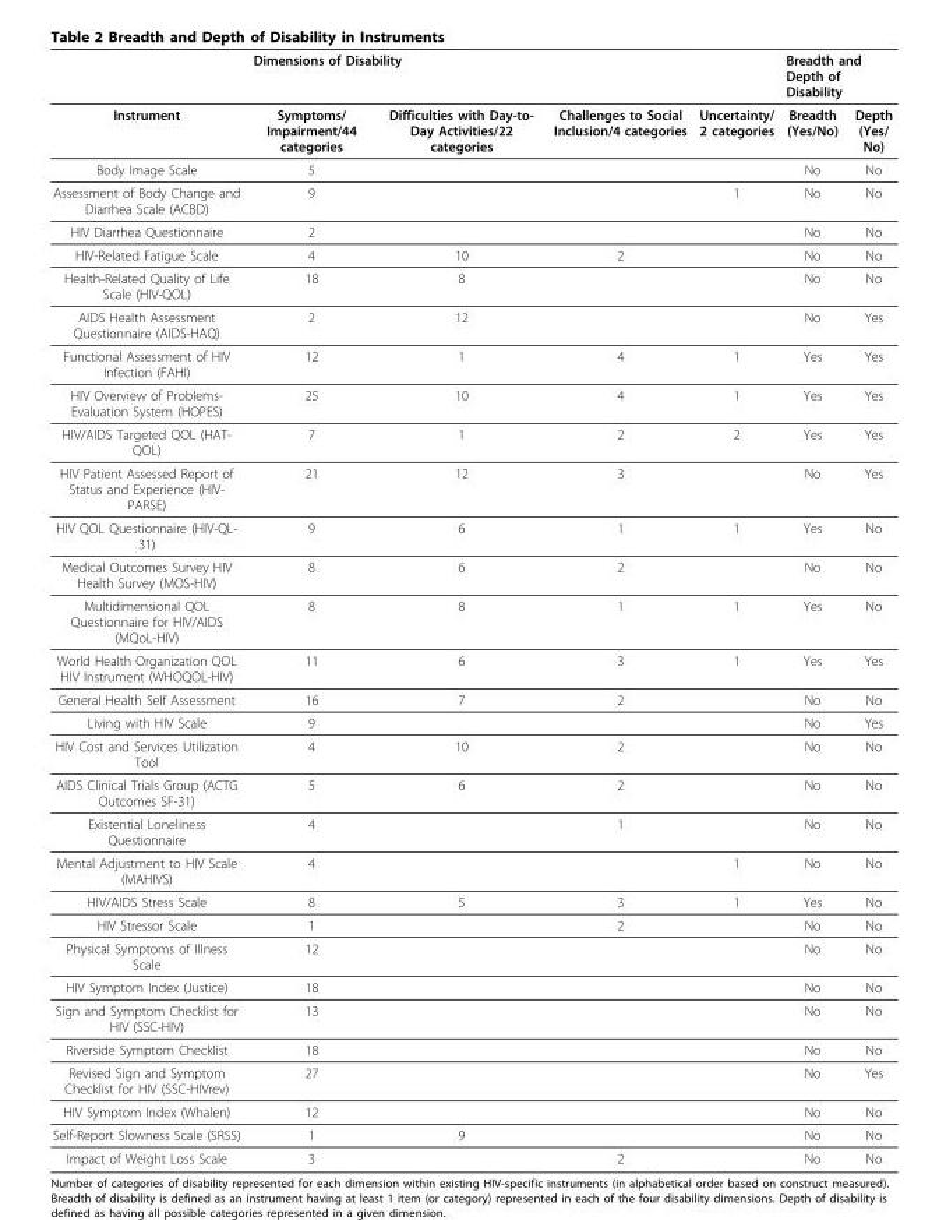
<table><thead><tr><td rowspan="2">Instrument</td><td colspan="4">Dimensions of Disability</td><td colspan="2">Breadth and Depth of Disability</td></tr><tr><td>Symptoms/ Impairment/44 categories</td><td>Difficulties with Day-to- Day Activities/22 categories</td><td>Challenges to Social Inclusion/4 categories</td><td>Uncertainty/ 2 categories</td><td>Breadth (Yes/No)</td><td>Depth (Yes/ No)</td></tr></thead><tbody><tr><td>Body Image Scale</td><td>5</td><td></td><td></td><td></td><td>No</td><td>No</td></tr><tr><td>Assessment of Body Change and Diarrhea Scale (ACBD)</td><td>9</td><td></td><td></td><td>1</td><td>No</td><td>No</td></tr><tr><td>HIV Diarrhea Questionnaire</td><td>2</td><td></td><td></td><td></td><td>No</td><td>No</td></tr><tr><td>HIV-Related Fatigue Scale</td><td>4</td><td>10</td><td>2</td><td></td><td>No</td><td>No</td></tr><tr><td>Health-Related Quality of Life Scale (HIV-QOL)</td><td>18</td><td>8</td><td></td><td></td><td>No</td><td>No</td></tr><tr><td>AIDS Health Assessment Questionnaire (AIDS-HAQ)</td><td>2</td><td>12</td><td></td><td></td><td>No</td><td>Yes</td></tr><tr><td>Functional Assessment of HIV Infection (FAHI)</td><td>12</td><td>1</td><td>4</td><td>1</td><td>Yes</td><td>Yes</td></tr><tr><td>HIV Overview of Problems- Evaluation System (HOPES)</td><td>25</td><td>10</td><td>4</td><td>1</td><td>Yes</td><td>Yes</td></tr><tr><td>HIV/AIDS Targeted QOL (HAT- QOL)</td><td>7</td><td>1</td><td>2</td><td>2</td><td>Yes</td><td>Yes</td></tr><tr><td>HIV Patient Assessed Report of Status and Experience (HIV- PARSE)</td><td>21</td><td>12</td><td>3</td><td></td><td>No</td><td>Yes</td></tr><tr><td>HIV QOL Questionnaire (HIV-QL- 31)</td><td>9</td><td>6</td><td>1</td><td>1</td><td>Yes</td><td>No</td></tr><tr><td>Medical Outcomes Survey HIV Health Survey (MOS-HIV)</td><td>8</td><td>6</td><td>2</td><td></td><td>No</td><td>No</td></tr><tr><td>Multidimensional QOL Questionnaire for HIV/AIDS (MQoL-HIV)</td><td>8</td><td>8</td><td>1</td><td>1</td><td>Yes</td><td>No</td></tr><tr><td>World Health Organization QOL HIV Instrument (WHOQOL-HIV)</td><td>11</td><td>6</td><td>3</td><td>1</td><td>Yes</td><td>Yes</td></tr><tr><td>General Health Self Assessment</td><td>16</td><td>7</td><td>2</td><td></td><td>No</td><td>No</td></tr><tr><td>Living with HIV Scale</td><td>9</td><td></td><td></td><td></td><td>No</td><td>Yes</td></tr><tr><td>HIV Cost and Services Utilization Tool</td><td>4</td><td>10</td><td>2</td><td></td><td>No</td><td>No</td></tr><tr><td>AIDS Clinical Trials Group (ACTG Outcomes SF-31)</td><td>5</td><td>6</td><td>2</td><td></td><td>No</td><td>No</td></tr><tr><td>Existential Loneliness Questionnaire</td><td>4</td><td></td><td>1</td><td></td><td>No</td><td>No</td></tr><tr><td>Mental Adjustment to HIV Scale (MAHIVS)</td><td>4</td><td></td><td></td><td>1</td><td>No</td><td>No</td></tr><tr><td>HIV/AIDS Stress Scale</td><td>8</td><td>5</td><td>3</td><td>1</td><td>Yes</td><td>No</td></tr><tr><td>HIV Stressor Scale</td><td>1</td><td></td><td>2</td><td></td><td>No</td><td>No</td></tr><tr><td>Physical Symptoms of Illness Scale</td><td>12</td><td></td><td></td><td></td><td>No</td><td>No</td></tr><tr><td>HIV Symptom Index (Justice)</td><td>18</td><td></td><td></td><td></td><td>No</td><td>No</td></tr><tr><td>Sign and Symptom Checklist for HIV (SSC-HIV)</td><td>13</td><td></td><td></td><td></td><td>No</td><td>No</td></tr><tr><td>Riverside Symptom Checklist</td><td>18</td><td></td><td></td><td></td><td>No</td><td>No</td></tr><tr><td>Revised Sign and Symptom Checklist for HIV (SSC-HIVrev)</td><td>27</td><td></td><td></td><td></td><td>No</td><td>Yes</td></tr><tr><td>HIV Symptom Index (Whalen)</td><td>12</td><td></td><td></td><td></td><td>No</td><td>No</td></tr><tr><td>Self-Report Slowness Scale (SRSS)</td><td>1</td><td>9</td><td></td><td></td><td>No</td><td>No</td></tr><tr><td>Impact of Weight Loss Scale</td><td>3</td><td></td><td>2</td><td></td><td>No</td><td>No</td></tr></tbody></table>